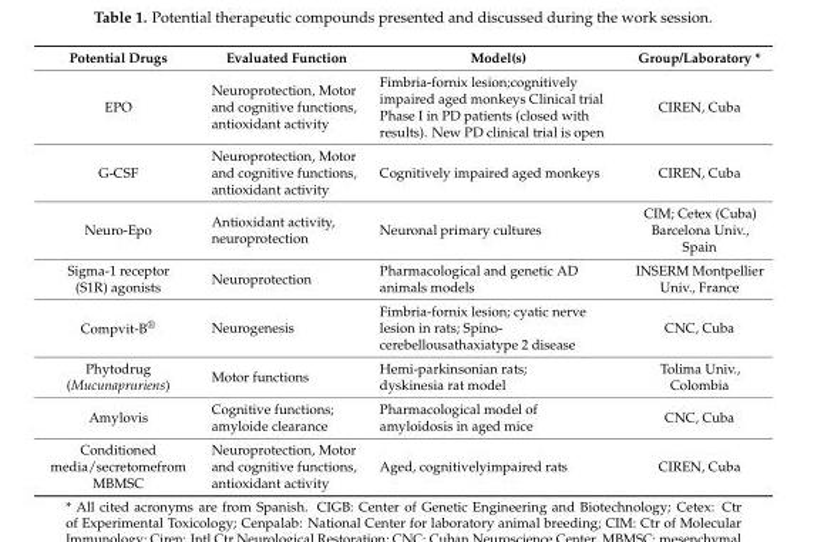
<table><thead><tr><td>Potential Drugs</td><td>Evaluated Function</td><td>Model(s)</td><td>Group/Laboratory *</td></tr></thead><tbody><tr><td>EPO</td><td>Neuroprotection, Motor and cognitive functions, antioxidant activity</td><td>Fimbria-fornix lesion;cognitively impaired aged monkeys Clinical trial Phase I in PD patients (closed with results). New PD clinical trial is open</td><td>CIREN, Cuba</td></tr><tr><td>G-CSF</td><td>Neuroprotection, Motor and cognitive functions, antioxidant activity</td><td>Cognitively impaired aged monkeys</td><td>CIREN, Cuba</td></tr><tr><td>Neuro-Epo</td><td>Antioxidant activity, neuroprotection</td><td>Neuronal primary cultures</td><td>CIM; Cetex (Cuba) Barcelona Univ., Spain</td></tr><tr><td>Sigma-1 receptor (S1R) agonists</td><td>Neuroprotection</td><td>Pharmacological and genetic AD animals models</td><td>INSERM Montpellier Univ., France</td></tr><tr><td>Compvit-B<sup>®</sup></td><td>Neurogenesis</td><td>Fimbria-fornix lesion; cyatic nerve lesion in rats; Spino- cerebellousathaxiatype 2 disease</td><td>CNC, Cuba</td></tr><tr><td>Phytodrug (Mucunapruriens)</td><td>Motor functions</td><td>Hemi-parkinsonian rats; dyskinesia rat model</td><td>Tolima Univ., Colombia</td></tr><tr><td>Amylovis</td><td>Cognitive functions; amyloide clearance</td><td>Pharmacological model of amyloidosis in aged mice</td><td>CNC, Cuba</td></tr><tr><td>Conditioned media/secretomefrom MBMSC</td><td>Neuroprotection, Motor and cognitive functions, antioxidant activity</td><td>Aged, cognitivelyimpaired rats</td><td>CIREN, Cuba</td></tr></tbody></table>